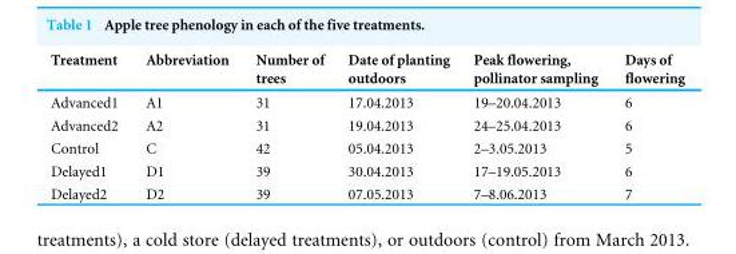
<table><thead><tr><td>Treatment</td><td>Abbreviation</td><td>Number of trees</td><td>Date of planting outdoors</td><td>Peak flowering, pollinator sampling</td><td>Days of flowering</td></tr></thead><tbody><tr><td>Advanced1</td><td>A1</td><td>31</td><td>17.04.2013</td><td>19–20.04.2013</td><td>6</td></tr><tr><td>Advanced2</td><td>A2</td><td>31</td><td>19.04.2013</td><td>24–25.04.2013</td><td>6</td></tr><tr><td>Control</td><td>C</td><td>42</td><td>05.04.2013</td><td>2–3.05.2013</td><td>5</td></tr><tr><td>Delayed1</td><td>D1</td><td>39</td><td>30.04.2013</td><td>17–19.05.2013</td><td>6</td></tr><tr><td>Delayed2</td><td>D2</td><td>39</td><td>07.05.2013</td><td>7–8.06.2013</td><td>7</td></tr></tbody></table>